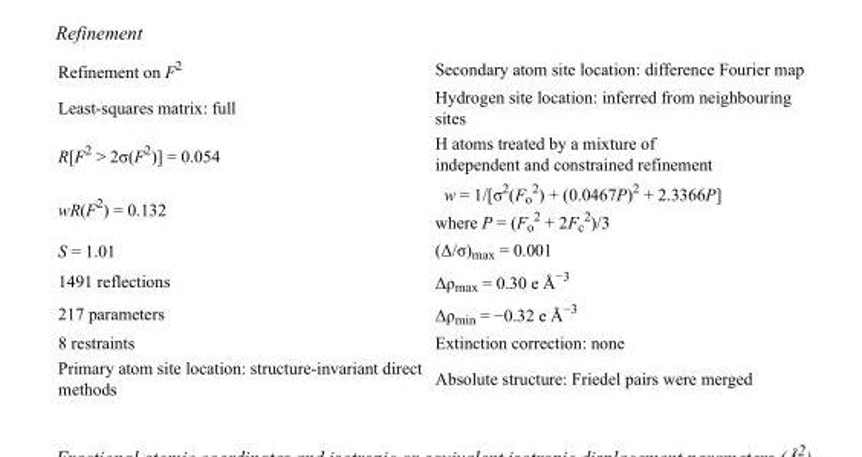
<table><tbody><tr><td>Refinement on F<sup>2</sup></td><td>Secondary atom site location: difference Fourier map</td></tr><tr><td>Least-squares matrix: full</td><td>Hydrogen site location: inferred from neighbouring sites</td></tr><tr><td>R[F<sup>2</sup> &gt; 2σ(F<sup>2</sup>)] = 0.054</td><td>H atoms treated by a mixture of independent and constrained refinement</td></tr><tr><td>wR(F<sup>2</sup>) = 0.132</td><td>w = 1/[σ<sup>2</sup>(F<sub>o</sub> <sup>2</sup>) + (0.0467P)<sup>2</sup> + 2.3366P] where P = (F<sub>o</sub> <sup>2</sup> + 2F<sub>c</sub> <sup>2</sup>)/3</td></tr><tr><td>S = 1.01</td><td>(Δ/σ)<sub>max</sub> = 0.001</td></tr><tr><td>1491 reflections</td><td>Δρ<sub>max</sub> = 0.30 e Å<sup>−3</sup></td></tr><tr><td>217 parameters</td><td>Δρ<sub>min</sub> = −0.32 e Å<sup>−3</sup></td></tr><tr><td>8 restraints</td><td>Extinction correction: none</td></tr><tr><td>Primary atom site location: structure-invariant direct methods</td><td>Absolute structure: Friedel pairs were merged</td></tr></tbody></table>